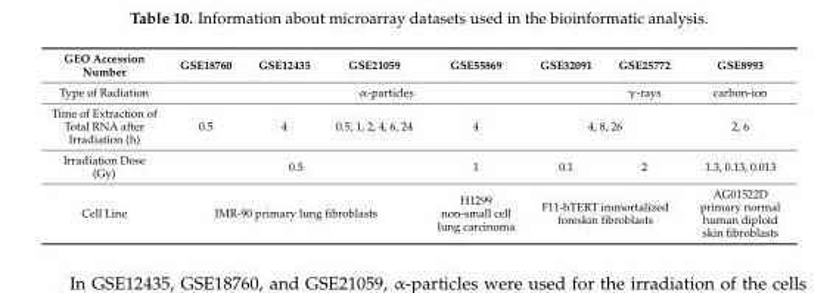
<table><thead><tr><td>GEO Accession Number</td><td>GSE18760</td><td>GSE12435</td><td>GSE21059</td><td>GSE55869</td><td>GSE32091</td><td>GSE25772</td><td>GSE8993</td></tr></thead><tbody><tr><td>Type of Radiation</td><td colspan="5">α-particles</td><td>γ-rays</td><td>carbon-ion</td></tr><tr><td>Time of Extraction of Total RNA after Irradiation (h)</td><td>0.5</td><td>4</td><td>0.5, 1, 2, 4, 6, 24</td><td>4</td><td colspan="2">4, 8, 26</td><td>2, 6</td></tr><tr><td>Irradiation Dose (Gy)</td><td colspan="3">0.5</td><td>1</td><td>0.1</td><td>2</td><td>1.3, 0.13, 0.013</td></tr><tr><td>Cell Line</td><td colspan="3">IMR-90 primary lung fibroblasts</td><td>H1299 non-small cell lung carcinoma</td><td colspan="2">F11-hTERT immortalized foreskin fibroblasts</td><td>AG01522D primary normal human diploid skin fibroblasts</td></tr></tbody></table>